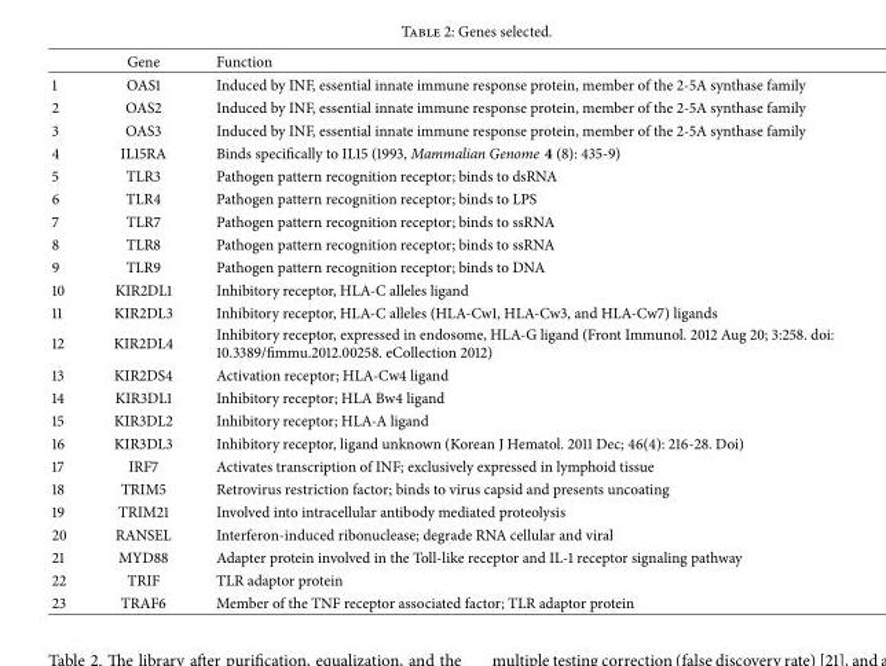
<table><thead><tr><td></td><td>Gene</td><td>Function</td></tr></thead><tbody><tr><td>1</td><td>OAS1</td><td>Induced by INF, essential innate immune response protein, member of the 2-5A synthase family</td></tr><tr><td>2</td><td>OAS2</td><td>Induced by INF, essential innate immune response protein, member of the 2-5A synthase family</td></tr><tr><td>3</td><td>OAS3</td><td>Induced by INF, essential innate immune response protein, member of the 2-5A synthase family</td></tr><tr><td>4</td><td>IL15RA</td><td>Binds specifically to IL15 (1993, Mammalian Genome 4 (8): 435-9)</td></tr><tr><td>5</td><td>TLR3</td><td>Pathogen pattern recognition receptor; binds to dsRNA</td></tr><tr><td>6</td><td>TLR4</td><td>Pathogen pattern recognition receptor; binds to LPS</td></tr><tr><td>7</td><td>TLR7</td><td>Pathogen pattern recognition receptor; binds to ssRNA</td></tr><tr><td>8</td><td>TLR8</td><td>Pathogen pattern recognition receptor; binds to ssRNA</td></tr><tr><td>9</td><td>TLR9</td><td>Pathogen pattern recognition receptor; binds to DNA</td></tr><tr><td>10</td><td>KIR2DL1</td><td>Inhibitory receptor, HLA-C alleles ligand</td></tr><tr><td>11</td><td>KIR2DL3</td><td>Inhibitory receptor, HLA-C alleles (HLA-Cw1, HLA-Cw3, and HLA-Cw7) ligands</td></tr><tr><td>12</td><td>KIR2DL4</td><td>Inhibitory receptor, expressed in endosome, HLA-G ligand (Front Immunol. 2012 Aug 20; 3:258. doi: 10.3389/fimmu.2012.00258. eCollection 2012)</td></tr><tr><td>13</td><td>KIR2DS4</td><td>Activation receptor; HLA-Cw4 ligand</td></tr><tr><td>14</td><td>KIR3DL1</td><td>Inhibitory receptor; HLA Bw4 ligand</td></tr><tr><td>15</td><td>KIR3DL2</td><td>Inhibitory receptor; HLA-A ligand</td></tr><tr><td>16</td><td>KIR3DL3</td><td>Inhibitory receptor, ligand unknown (Korean J Hematol. 2011 Dec; 46(4): 216-28. Doi)</td></tr><tr><td>17</td><td>IRF7</td><td>Activates transcription of INF; exclusively expressed in lymphoid tissue</td></tr><tr><td>18</td><td>TRIM5</td><td>Retrovirus restriction factor; binds to virus capsid and presents uncoating</td></tr><tr><td>19</td><td>TRIM21</td><td>Involved into intracellular antibody mediated proteolysis</td></tr><tr><td>20</td><td>RANSEL</td><td>Interferon-induced ribonuclease; degrade RNA cellular and viral</td></tr><tr><td>21</td><td>MYD88</td><td>Adapter protein involved in the Toll-like receptor and IL-1 receptor signaling pathway</td></tr><tr><td>22</td><td>TRIF</td><td>TLR adaptor protein</td></tr><tr><td>23</td><td>TRAF6</td><td>Member of the TNF receptor associated factor; TLR adaptor protein</td></tr></tbody></table>